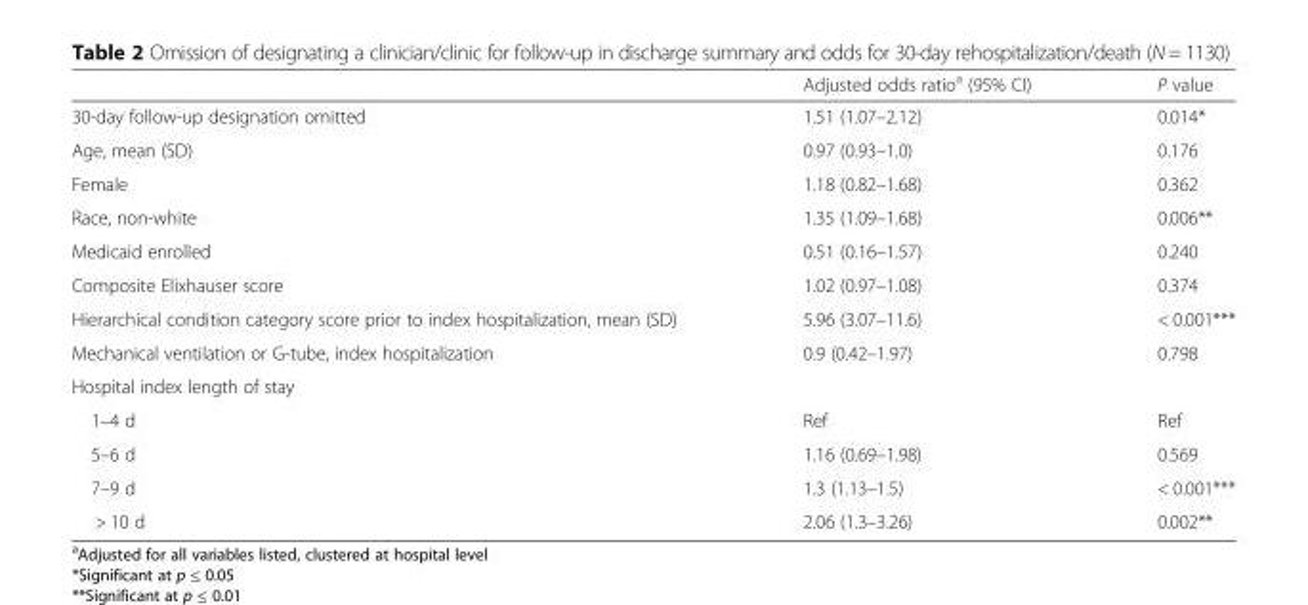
<table><thead><tr><td></td><td>Adjusted odds ratio<sup>a</sup> (95% CI)</td><td>P value</td></tr></thead><tbody><tr><td>30-day follow-up designation omitted</td><td>1.51 (1.07–2.12)</td><td>0.014*</td></tr><tr><td>Age, mean (SD)</td><td>0.97 (0.93–1.0)</td><td>0.176</td></tr><tr><td>Female</td><td>1.18 (0.82–1.68)</td><td>0.362</td></tr><tr><td>Race, non-white</td><td>1.35 (1.09–1.68)</td><td>0.006**</td></tr><tr><td>Medicaid enrolled</td><td>0.51 (0.16–1.57)</td><td>0.240</td></tr><tr><td>Composite Elixhauser score</td><td>1.02 (0.97–1.08)</td><td>0.374</td></tr><tr><td>Hierarchical condition category score prior to index hospitalization, mean (SD)</td><td>5.96 (3.07–11.6)</td><td>&lt; 0.001***</td></tr><tr><td>Mechanical ventilation or G-tube, index hospitalization</td><td>0.9 (0.42–1.97)</td><td>0.798</td></tr><tr><td colspan="3">Hospital index length of stay</td></tr><tr><td>1–4 d</td><td>Ref</td><td>Ref</td></tr><tr><td>5–6 d</td><td>1.16 (0.69–1.98)</td><td>0.569</td></tr><tr><td>7–9 d</td><td>1.3 (1.13–1.5)</td><td>&lt; 0.001***</td></tr><tr><td>&gt; 10 d</td><td>2.06 (1.3–3.26)</td><td>0.002**</td></tr></tbody></table>